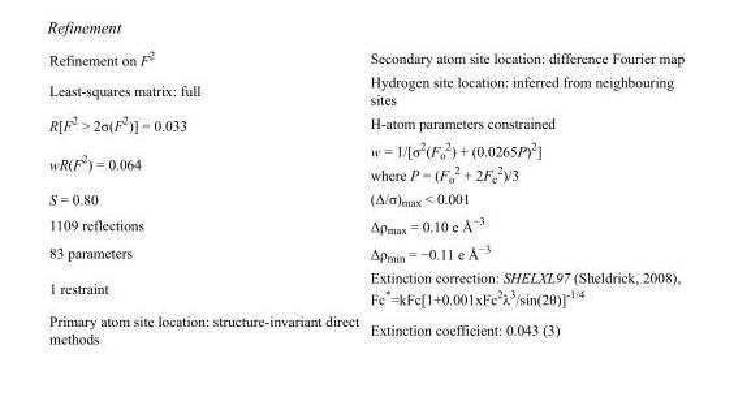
<table><tbody><tr><td>Refinement on F<sup>2</sup></td><td>Secondary atom site location: difference Fourier map</td></tr><tr><td>Least-squares matrix: full</td><td>Hydrogen site location: inferred from neighbouring sites</td></tr><tr><td>R[F<sup>2</sup> &gt; 2σ(F<sup>2</sup>)] = 0.033</td><td>H-atom parameters constrained</td></tr><tr><td>wR(F<sup>2</sup>) = 0.064</td><td>w = 1/[σ<sup>2</sup>(F<sub>o</sub> <sup>2</sup>) + (0.0265P)<sup>2</sup>] where P = (F<sub>o</sub> <sup>2</sup> + 2F<sub>c</sub> <sup>2</sup>)/3</td></tr><tr><td>S = 0.80</td><td>(Δ/σ)<sub>max</sub> &lt; 0.001</td></tr><tr><td>1109 reflections</td><td>Δρ<sub>max</sub> = 0.10 e Å<sup>−3</sup></td></tr><tr><td>83 parameters</td><td>Δρ<sub>min</sub> = −0.11 e Å<sup>−3</sup></td></tr><tr><td>1 restraint</td><td>Extinction correction: SHELXL97 (Sheldrick, 2008), Fc*=kFc[1+0.001xFc<sup>2</sup>λ<sup>3</sup>/sin(2θ)]<sup>-1/4</sup></td></tr><tr><td>Primary atom site location: structure-invariant direct methods</td><td>Extinction coefficient: 0.043 (3)</td></tr></tbody></table>